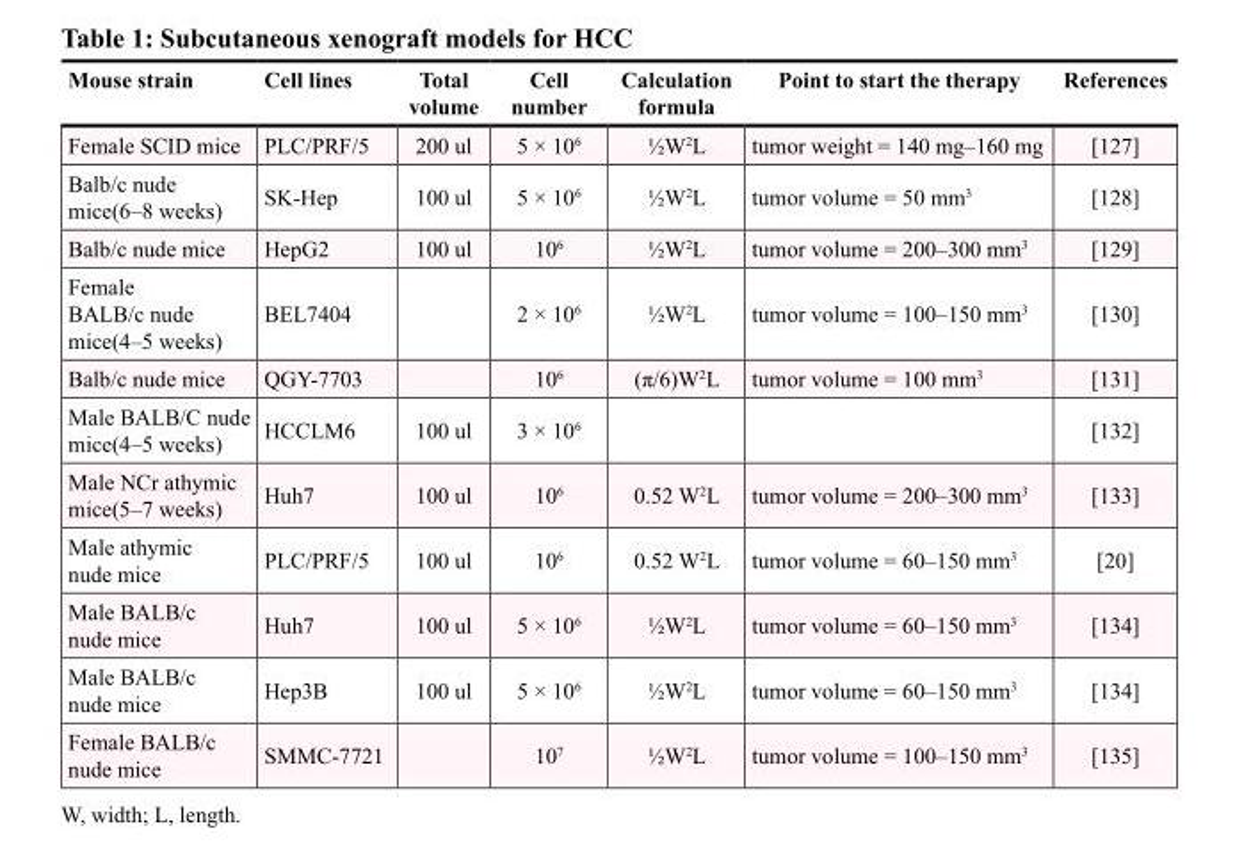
<table><thead><tr><td>Mouse strain</td><td>Cell lines</td><td>Total volume</td><td>Cell number</td><td>Calculation formula</td><td>Point to start the therapy</td><td>References</td></tr></thead><tbody><tr><td>Female SCID mice</td><td>PLC/PRF/5</td><td>200 ul</td><td>5 × 10<sup>6</sup></td><td>½W2L</td><td>tumor weight = 140 mg–160 mg</td><td>[127]</td></tr><tr><td>Balb/c nude mice(6–8 weeks)</td><td>SK-Hep</td><td>100 ul</td><td>5 × 10<sup>6</sup></td><td>½W2L</td><td>tumor volume = 50 mm<sup>3</sup></td><td>[128]</td></tr><tr><td>Balb/c nude mice</td><td>HepG2</td><td>100 ul</td><td>10<sup>6</sup></td><td>½W2L</td><td>tumor volume = 200–300 mm<sup>3</sup></td><td>[129]</td></tr><tr><td>Female BALB/c nude mice(4–5 weeks)</td><td>BEL7404</td><td></td><td>2 × 10<sup>6</sup></td><td>½W2L</td><td>tumor volume = 100–150 mm<sup>3</sup></td><td>[130]</td></tr><tr><td>Balb/c nude mice</td><td>QGY-7703</td><td></td><td>10<sup>6</sup></td><td>(π/6)W2L</td><td>tumor volume = 100 mm<sup>3</sup></td><td>[131]</td></tr><tr><td>Male BALB/C nude mice(4–5 weeks)</td><td>HCCLM6</td><td>100 ul</td><td>3 × 10<sup>6</sup></td><td></td><td></td><td>[132]</td></tr><tr><td>Male NCr athymic mice(5–7 weeks)</td><td>Huh7</td><td>100 ul</td><td>10<sup>6</sup></td><td>0.52 W2L</td><td>tumor volume = 200–300 mm<sup>3</sup></td><td>[133]</td></tr><tr><td>Male athymic nude mice</td><td>PLC/PRF/5</td><td>100 ul</td><td>10<sup>6</sup></td><td>0.52 W2L</td><td>tumor volume = 60–150 mm<sup>3</sup></td><td>[20]</td></tr><tr><td>Male BALB/c nude mice</td><td>Huh7</td><td>100 ul</td><td>5 × 10<sup>6</sup></td><td>½W2L</td><td>tumor volume = 60–150 mm<sup>3</sup></td><td>[134]</td></tr><tr><td>Male BALB/c nude mice</td><td>Hep3B</td><td>100 ul</td><td>5 × 10<sup>6</sup></td><td>½W2L</td><td>tumor volume = 60–150 mm<sup>3</sup></td><td>[134]</td></tr><tr><td>Female BALB/c nude mice</td><td>SMMC-7721</td><td></td><td>10<sup>7</sup></td><td>½W2L</td><td>tumor volume = 100–150 mm<sup>3</sup></td><td>[135]</td></tr></tbody></table>